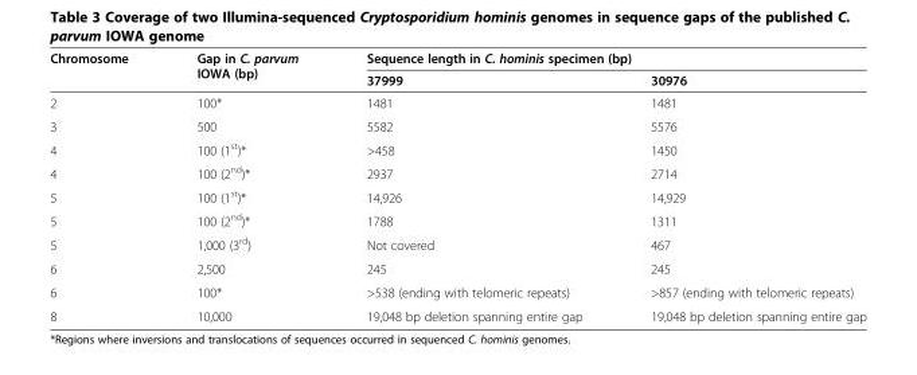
<table><thead><tr><td rowspan="2">Chromosome</td><td rowspan="2">Gap in C. parvum IOWA (bp)</td><td colspan="2">Sequence length in C. hominis specimen (bp)</td></tr><tr><td>37999</td><td>30976</td></tr></thead><tbody><tr><td>2</td><td>100*</td><td>1481</td><td>1481</td></tr><tr><td>3</td><td>500</td><td>5582</td><td>5576</td></tr><tr><td>4</td><td>100 (1<sup>st</sup>)*</td><td>&gt;458</td><td>1450</td></tr><tr><td>4</td><td>100 (2<sup>nd</sup>)*</td><td>2937</td><td>2714</td></tr><tr><td>5</td><td>100 (1<sup>st</sup>)*</td><td>14,926</td><td>14,929</td></tr><tr><td>5</td><td>100 (2<sup>nd</sup>)*</td><td>1788</td><td>1311</td></tr><tr><td>5</td><td>1,000 (3<sup>rd</sup>)</td><td>Not covered</td><td>467</td></tr><tr><td>6</td><td>2,500</td><td>245</td><td>245</td></tr><tr><td>6</td><td>100*</td><td>&gt;538 (ending with telomeric repeats)</td><td>&gt;857 (ending with telomeric repeats)</td></tr><tr><td>8</td><td>10,000</td><td>19,048 bp deletion spanning entire gap</td><td>19,048 bp deletion spanning entire gap</td></tr></tbody></table>